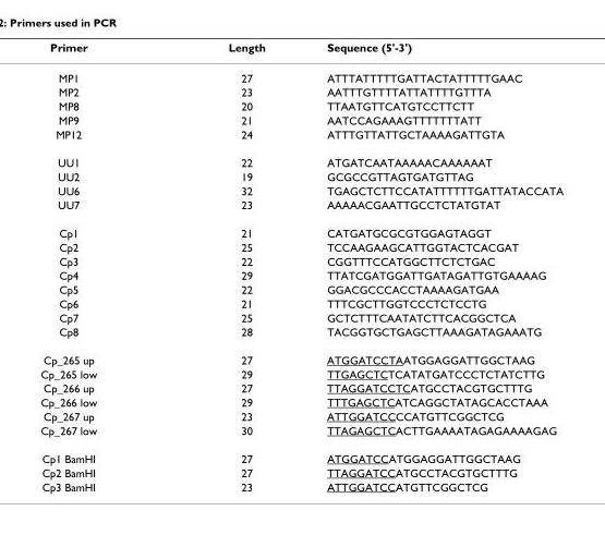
<table><thead><tr><td>Primer</td><td>Length</td><td>Sequence (5&#x27;-3&#x27;)</td></tr></thead><tbody><tr><td>MP1</td><td>27</td><td>ATTTATTTTTGATTACTATTTTTGAAC</td></tr><tr><td>MP2</td><td>23</td><td>AATTTGTTTTATTATTTTGTTTA</td></tr><tr><td>MP8</td><td>20</td><td>TTAATGTTCATGTCCTTCTT</td></tr><tr><td>MP9</td><td>21</td><td>AATCCAGAAAGTTTTTTTATT</td></tr><tr><td>MP12</td><td>24</td><td>ATTTGTTATTGCTAAAAGATTGTA</td></tr><tr><td>UU1</td><td>22</td><td>ATGATCAATAAAAACAAAAAAT</td></tr><tr><td>UU2</td><td>19</td><td>GCGCCGTTAGTGATGTTAG</td></tr><tr><td>UU6</td><td>32</td><td>TGAGCTCTTCCATATTTTTTGATTATACCATA</td></tr><tr><td>UU7</td><td>23</td><td>AAAAACGAATTGCCTCTATGTAT</td></tr><tr><td>Cp1</td><td>21</td><td>CATGATGCGCGTGGAGTAGGT</td></tr><tr><td>Cp2</td><td>25</td><td>TCCAAGAAGCATTGGTACTCACGAT</td></tr><tr><td>Cp3</td><td>22</td><td>CGGTTTCCATGGCTTCTCTGAC</td></tr><tr><td>Cp4</td><td>29</td><td>TTATCGATGGATTGATAGATTGTGAAAAG</td></tr><tr><td>Cp5</td><td>22</td><td>GGACGCCCACCTAAAAGATGAA</td></tr><tr><td>Cp6</td><td>21</td><td>TTTCGCTTGGTCCCTCTCCTG</td></tr><tr><td>Cp7</td><td>25</td><td>GCTCTTTCAATATCTTCACGGCTCA</td></tr><tr><td>Cp8</td><td>28</td><td>TACGGTGCTGAGCTTAAAGATAGAAATG</td></tr><tr><td>Cp_265 up</td><td>27</td><td>ATGGATCCTAATGGAGGATTGGCTAAG</td></tr><tr><td>Cp_265 low</td><td>29</td><td>TTGAGCTCTCATATGATCCCTCTATCTTG</td></tr><tr><td>Cp_266 up</td><td>27</td><td>TTAGGATCCTCATGCCTACGTGCTTTG</td></tr><tr><td>Cp_266 low</td><td>29</td><td>TTTGAGCTCATCAGGCTATAGCACCTAAA</td></tr><tr><td>Cp_267 up</td><td>23</td><td>ATTGGATCCCCATGTTCGGCTCG</td></tr><tr><td>Cp_267 low</td><td>30</td><td>TTAGAGCTCACTTGAAAATAGAGAAAAGAG</td></tr><tr><td>Cp1 BamHI</td><td>27</td><td>ATGGATCCATGGAGGATTGGCTAAG</td></tr><tr><td>Cp2 BamHI</td><td>27</td><td>TTAGGATCCATGCCTACGTGCTTTG</td></tr><tr><td>Cp3 BamHI</td><td>23</td><td>ATTGGATCCATGTTCGGCTCG</td></tr></tbody></table>